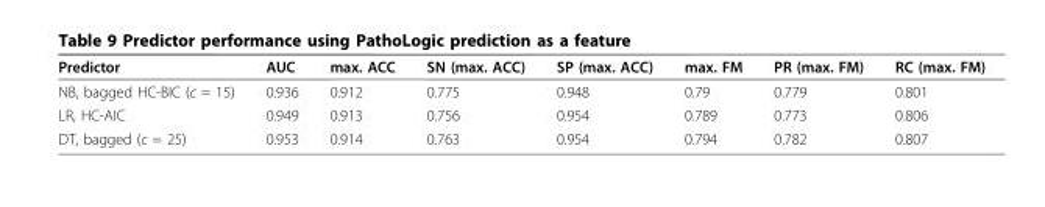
<table><thead><tr><td>Predictor</td><td>AUC</td><td>max. ACC</td><td>SN (max. ACC)</td><td>SP (max. ACC)</td><td>max. FM</td><td>PR (max. FM)</td><td>RC (max. FM)</td></tr></thead><tbody><tr><td>NB, bagged HC-BIC (c = 15)</td><td>0.936</td><td>0.912</td><td>0.775</td><td>0.948</td><td>0.79</td><td>0.779</td><td>0.801</td></tr><tr><td>LR, HC-AIC</td><td>0.949</td><td>0.913</td><td>0.756</td><td>0.954</td><td>0.789</td><td>0.773</td><td>0.806</td></tr><tr><td>DT, bagged (c = 25)</td><td>0.953</td><td>0.914</td><td>0.763</td><td>0.954</td><td>0.794</td><td>0.782</td><td>0.807</td></tr></tbody></table>